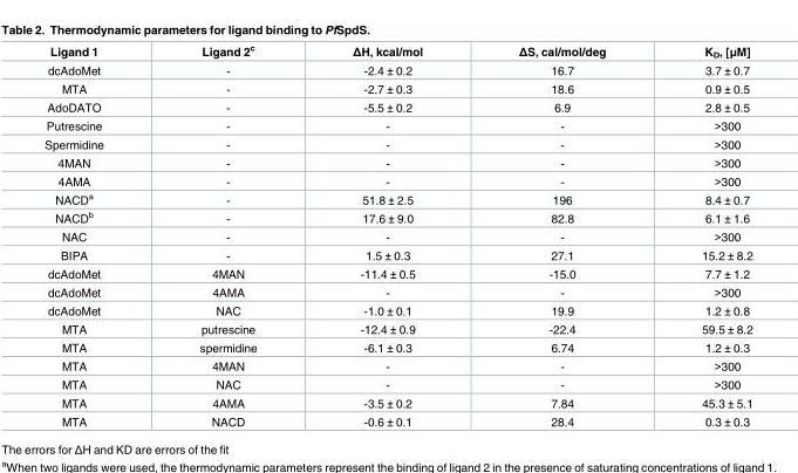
<table><thead><tr><td>Ligand 1</td><td>Ligand 2<sup>c</sup></td><td>ΔH, kcal/mol</td><td>ΔS, cal/mol/deg</td><td>K<sub>D</sub>, [μM]</td></tr></thead><tbody><tr><td>dcAdoMet</td><td>-</td><td>-2.4 ± 0.2</td><td>16.7</td><td>3.7 ± 0.7</td></tr><tr><td>MTA</td><td>-</td><td>-2.7 ± 0.3</td><td>18.6</td><td>0.9 ± 0.5</td></tr><tr><td>AdoDATO</td><td>-</td><td>-5.5 ± 0.2</td><td>6.9</td><td>2.8 ± 0.5</td></tr><tr><td>Putrescine</td><td>-</td><td>-</td><td>-</td><td>&gt;300</td></tr><tr><td>Spermidine</td><td>-</td><td>-</td><td>-</td><td>&gt;300</td></tr><tr><td>4MAN</td><td>-</td><td>-</td><td>-</td><td>&gt;300</td></tr><tr><td>4AMA</td><td>-</td><td>-</td><td>-</td><td>&gt;300</td></tr><tr><td>NACD<sup>a</sup></td><td>-</td><td>51.8 ± 2.5</td><td>196</td><td>8.4 ± 0.7</td></tr><tr><td>NACD<sup>b</sup></td><td>-</td><td>17.6 ± 9.0</td><td>82.8</td><td>6.1 ± 1.6</td></tr><tr><td>NAC</td><td>-</td><td>-</td><td>-</td><td>&gt;300</td></tr><tr><td>BIPA</td><td>-</td><td>1.5 ± 0.3</td><td>27.1</td><td>15.2 ± 8.2</td></tr><tr><td>dcAdoMet</td><td>4MAN</td><td>-11.4 ± 0.5</td><td>-15.0</td><td>7.7 ± 1.2</td></tr><tr><td>dcAdoMet</td><td>4AMA</td><td>-</td><td>-</td><td>&gt;300</td></tr><tr><td>dcAdoMet</td><td>NAC</td><td>-1.0 ± 0.1</td><td>19.9</td><td>1.2 ± 0.8</td></tr><tr><td>MTA</td><td>putrescine</td><td>-12.4 ± 0.9</td><td>-22.4</td><td>59.5 ± 8.2</td></tr><tr><td>MTA</td><td>spermidine</td><td>-6.1 ± 0.3</td><td>6.74</td><td>1.2 ± 0.3</td></tr><tr><td>MTA</td><td>4MAN</td><td>-</td><td>-</td><td>&gt;300</td></tr><tr><td>MTA</td><td>NAC</td><td>-</td><td>-</td><td>&gt;300</td></tr><tr><td>MTA</td><td>4AMA</td><td>-3.5 ± 0.2</td><td>7.84</td><td>45.3 ± 5.1</td></tr><tr><td>MTA</td><td>NACD</td><td>-0.6 ± 0.1</td><td>28.4</td><td>0.3 ± 0.3</td></tr></tbody></table>